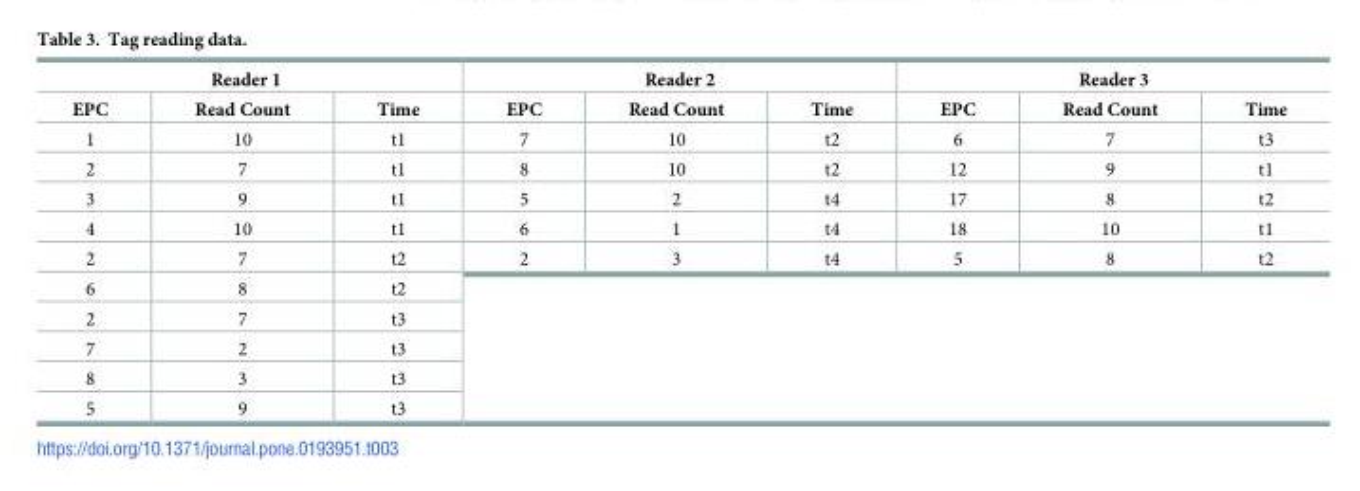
<table><thead><tr><td colspan="3">Reader 1</td><td colspan="3">Reader 2</td><td colspan="3">Reader 3</td></tr><tr><td>EPC</td><td>Read Count</td><td>Time</td><td>EPC</td><td>Read Count</td><td>Time</td><td>EPC</td><td>Read Count</td><td>Time</td></tr></thead><tbody><tr><td>1</td><td>10</td><td>t1</td><td>7</td><td>10</td><td>t2</td><td>6</td><td>7</td><td>t3</td></tr><tr><td>2</td><td>7</td><td>t1</td><td>8</td><td>10</td><td>t2</td><td>12</td><td>9</td><td>t1</td></tr><tr><td>3</td><td>9</td><td>t1</td><td>5</td><td>2</td><td>t4</td><td>17</td><td>8</td><td>t2</td></tr><tr><td>4</td><td>10</td><td>t1</td><td>6</td><td>1</td><td>t4</td><td>18</td><td>10</td><td>t1</td></tr><tr><td>2</td><td>7</td><td>t2</td><td>2</td><td>3</td><td>t4</td><td>5</td><td>8</td><td>t2</td></tr><tr><td>6</td><td>8</td><td>t2</td><td rowspan="5" colspan="6"></td></tr><tr><td>2</td><td>7</td><td>t3</td></tr><tr><td>7</td><td>2</td><td>t3</td></tr><tr><td>8</td><td>3</td><td>t3</td></tr><tr><td>5</td><td>9</td><td>t3</td></tr></tbody></table>